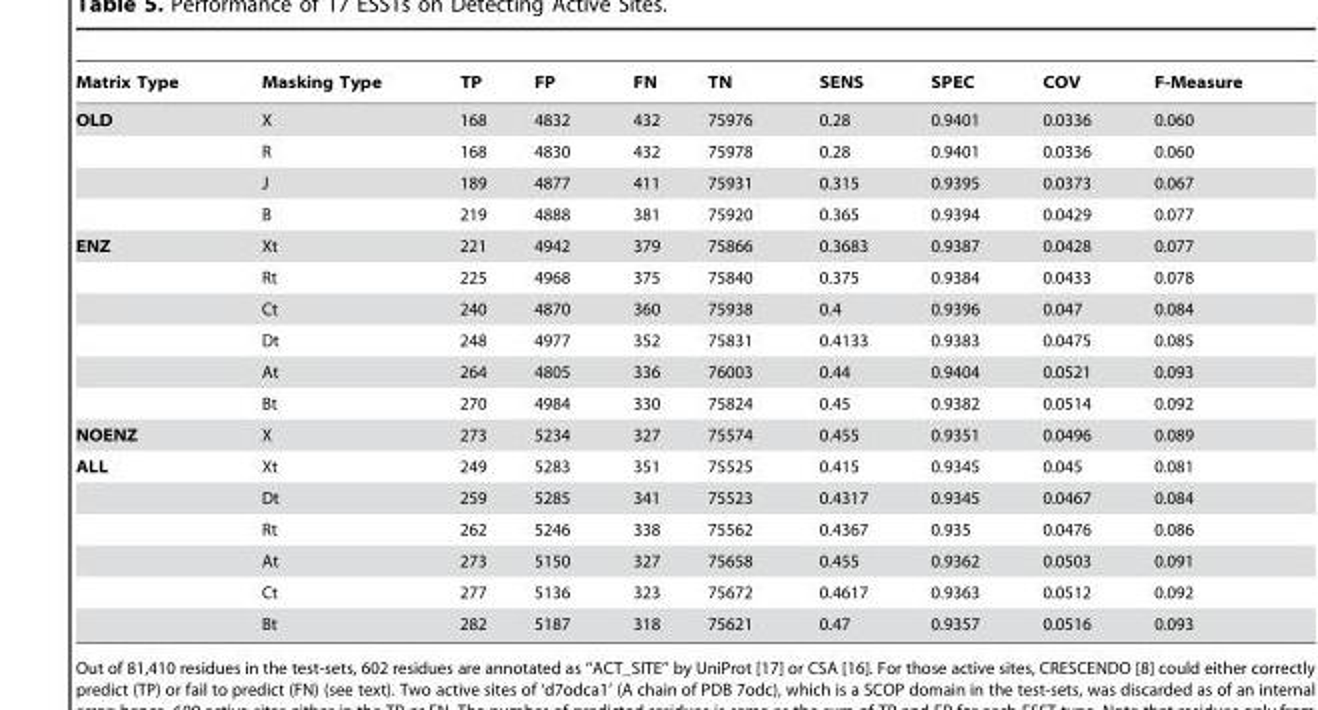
<table><thead><tr><td>Matrix Type</td><td>Masking Type</td><td>TP</td><td>FP</td><td>FN</td><td>TN</td><td>SENS</td><td>SPEC</td><td>COV</td><td>F-Measure</td></tr></thead><tbody><tr><td rowspan="4">OLD</td><td>X</td><td>168</td><td>4832</td><td>432</td><td>75976</td><td>0.28</td><td>0.9401</td><td>0.0336</td><td>0.060</td></tr><tr><td>R</td><td>168</td><td>4830</td><td>432</td><td>75978</td><td>0.28</td><td>0.9401</td><td>0.0336</td><td>0.060</td></tr><tr><td>J</td><td>189</td><td>4877</td><td>411</td><td>75931</td><td>0.315</td><td>0.9395</td><td>0.0373</td><td>0.067</td></tr><tr><td>B</td><td>219</td><td>4888</td><td>381</td><td>75920</td><td>0.365</td><td>0.9394</td><td>0.0429</td><td>0.077</td></tr><tr><td rowspan="6">ENZ</td><td>Xt</td><td>221</td><td>4942</td><td>379</td><td>75866</td><td>0.3683</td><td>0.9387</td><td>0.0428</td><td>0.077</td></tr><tr><td>Rt</td><td>225</td><td>4968</td><td>375</td><td>75840</td><td>0.375</td><td>0.9384</td><td>0.0433</td><td>0.078</td></tr><tr><td>Ct</td><td>240</td><td>4870</td><td>360</td><td>75938</td><td>0.4</td><td>0.9396</td><td>0.047</td><td>0.084</td></tr><tr><td>Dt</td><td>248</td><td>4977</td><td>352</td><td>75831</td><td>0.4133</td><td>0.9383</td><td>0.0475</td><td>0.085</td></tr><tr><td>At</td><td>264</td><td>4805</td><td>336</td><td>76003</td><td>0.44</td><td>0.9404</td><td>0.0521</td><td>0.093</td></tr><tr><td>Bt</td><td>270</td><td>4984</td><td>330</td><td>75824</td><td>0.45</td><td>0.9382</td><td>0.0514</td><td>0.092</td></tr><tr><td>NOENZ</td><td>X</td><td>273</td><td>5234</td><td>327</td><td>75574</td><td>0.455</td><td>0.9351</td><td>0.0496</td><td>0.089</td></tr><tr><td rowspan="6">ALL</td><td>Xt</td><td>249</td><td>5283</td><td>351</td><td>75525</td><td>0.415</td><td>0.9345</td><td>0.045</td><td>0.081</td></tr><tr><td>Dt</td><td>259</td><td>5285</td><td>341</td><td>75523</td><td>0.4317</td><td>0.9345</td><td>0.0467</td><td>0.084</td></tr><tr><td>Rt</td><td>262</td><td>5246</td><td>338</td><td>75562</td><td>0.4367</td><td>0.935</td><td>0.0476</td><td>0.086</td></tr><tr><td>At</td><td>273</td><td>5150</td><td>327</td><td>75658</td><td>0.455</td><td>0.9362</td><td>0.0503</td><td>0.091</td></tr><tr><td>Ct</td><td>277</td><td>5136</td><td>323</td><td>75672</td><td>0.4617</td><td>0.9363</td><td>0.0512</td><td>0.092</td></tr><tr><td>Bt</td><td>282</td><td>5187</td><td>318</td><td>75621</td><td>0.47</td><td>0.9357</td><td>0.0516</td><td>0.093</td></tr></tbody></table>